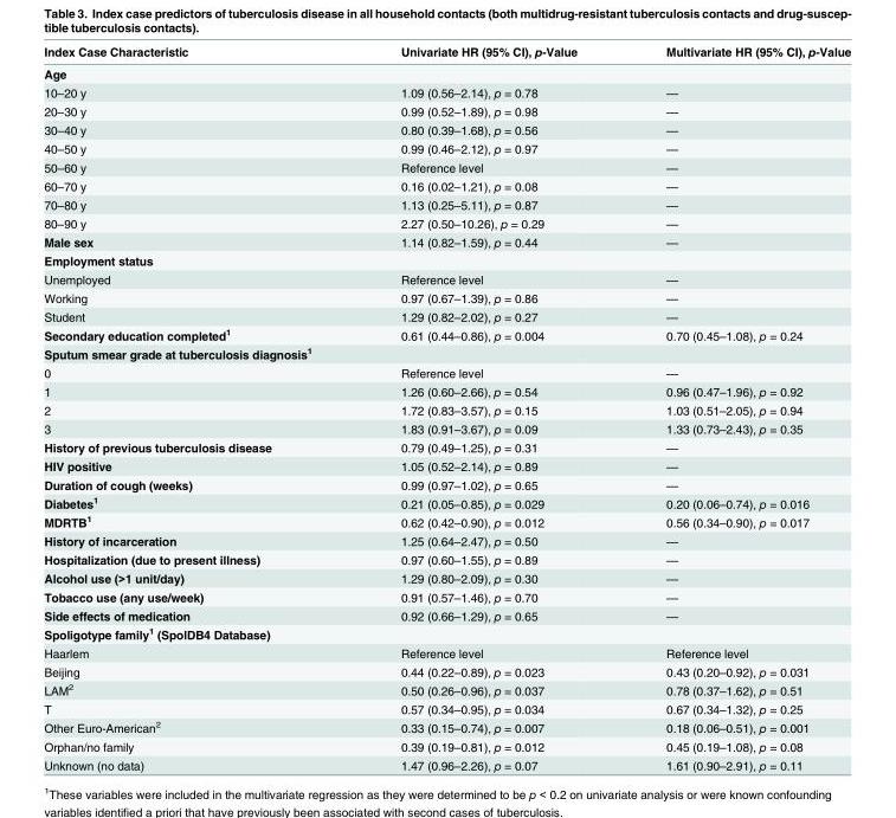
<table><thead><tr><td>Index Case Characteristic</td><td>Univariate HR (95% CI), p-Value</td><td>Multivariate HR (95% CI), p-Value</td></tr></thead><tbody><tr><td colspan="3">Age</td></tr><tr><td>10–20 y</td><td>1.09 (0.56–2.14), p = 0.78</td><td>—</td></tr><tr><td>20–30 y</td><td>0.99 (0.52–1.89), p = 0.98</td><td>—</td></tr><tr><td>30–40 y</td><td>0.80 (0.39–1.68), p = 0.56</td><td>—</td></tr><tr><td>40–50 y</td><td>0.99 (0.46–2.12), p = 0.97</td><td>—</td></tr><tr><td>50–60 y</td><td>Reference level</td><td>—</td></tr><tr><td>60–70 y</td><td>0.16 (0.02–1.21), p = 0.08</td><td>—</td></tr><tr><td>70–80 y</td><td>1.13 (0.25–5.11), p = 0.87</td><td>—</td></tr><tr><td>80–90 y</td><td>2.27 (0.50–10.26), p = 0.29</td><td>—</td></tr><tr><td>Male sex</td><td>1.14 (0.82–1.59), p = 0.44</td><td>—</td></tr><tr><td colspan="3">Employment status</td></tr><tr><td>Unemployed</td><td>Reference level</td><td>—</td></tr><tr><td>Working</td><td>0.97 (0.67–1.39), p = 0.86</td><td>—</td></tr><tr><td>Student</td><td>1.29 (0.82–2.02), p = 0.27</td><td>—</td></tr><tr><td>Secondary education completed<sup>1</sup></td><td>0.61 (0.44–0.86), p = 0.004</td><td>0.70 (0.45–1.08), p = 0.24</td></tr><tr><td colspan="3">Sputum smear grade at tuberculosis diagnosis<sup>1</sup></td></tr><tr><td>0</td><td>Reference level</td><td>—</td></tr><tr><td>1</td><td>1.26 (0.60–2.66), p = 0.54</td><td>0.96 (0.47–1.96), p = 0.92</td></tr><tr><td>2</td><td>1.72 (0.83–3.57), p = 0.15</td><td>1.03 (0.51–2.05), p = 0.94</td></tr><tr><td>3</td><td>1.83 (0.91–3.67), p = 0.09</td><td>1.33 (0.73–2.43), p = 0.35</td></tr><tr><td>History of previous tuberculosis disease</td><td>0.79 (0.49–1.25), p = 0.31</td><td>—</td></tr><tr><td>HIV positive</td><td>1.05 (0.52–2.14), p = 0.89</td><td>—</td></tr><tr><td>Duration of cough (weeks)</td><td>0.99 (0.97–1.02), p = 0.65</td><td>—</td></tr><tr><td>Diabetes<sup>1</sup></td><td>0.21 (0.05–0.85), p = 0.029</td><td>0.20 (0.06–0.74), p = 0.016</td></tr><tr><td>MDRTB<sup>1</sup></td><td>0.62 (0.42–0.90), p = 0.012</td><td>0.56 (0.34–0.90), p = 0.017</td></tr><tr><td>History of incarceration</td><td>1.25 (0.64–2.47), p = 0.50</td><td>—</td></tr><tr><td>Hospitalization (due to present illness)</td><td>0.97 (0.60–1.55), p = 0.89</td><td>—</td></tr><tr><td>Alcohol use (&gt;1 unit/day)</td><td>1.29 (0.80–2.09), p = 0.30</td><td>—</td></tr><tr><td>Tobacco use (any use/week)</td><td>0.91 (0.57–1.46), p = 0.70</td><td>—</td></tr><tr><td>Side effects of medication</td><td>0.92 (0.66–1.29), p = 0.65</td><td>—</td></tr><tr><td colspan="3">Spoligotype family<sup>1</sup> (SpolDB4 Database)</td></tr><tr><td>Haarlem</td><td>Reference level</td><td>Reference level</td></tr><tr><td>Beijing</td><td>0.44 (0.22–0.89), p = 0.023</td><td>0.43 (0.20–0.92), p = 0.031</td></tr><tr><td>LAM<sup>2</sup></td><td>0.50 (0.26–0.96), p = 0.037</td><td>0.78 (0.37–1.62), p = 0.51</td></tr><tr><td>T</td><td>0.57 (0.34–0.95), p = 0.034</td><td>0.67 (0.34–1.32), p = 0.25</td></tr><tr><td>Other Euro-American<sup>2</sup></td><td>0.33 (0.15–0.74), p = 0.007</td><td>0.18 (0.06–0.51), p = 0.001</td></tr><tr><td>Orphan/no family</td><td>0.39 (0.19–0.81), p = 0.012</td><td>0.45 (0.19–1.08), p = 0.08</td></tr><tr><td>Unknown (no data)</td><td>1.47 (0.96–2.26), p = 0.07</td><td>1.61 (0.90–2.91), p = 0.11</td></tr></tbody></table>